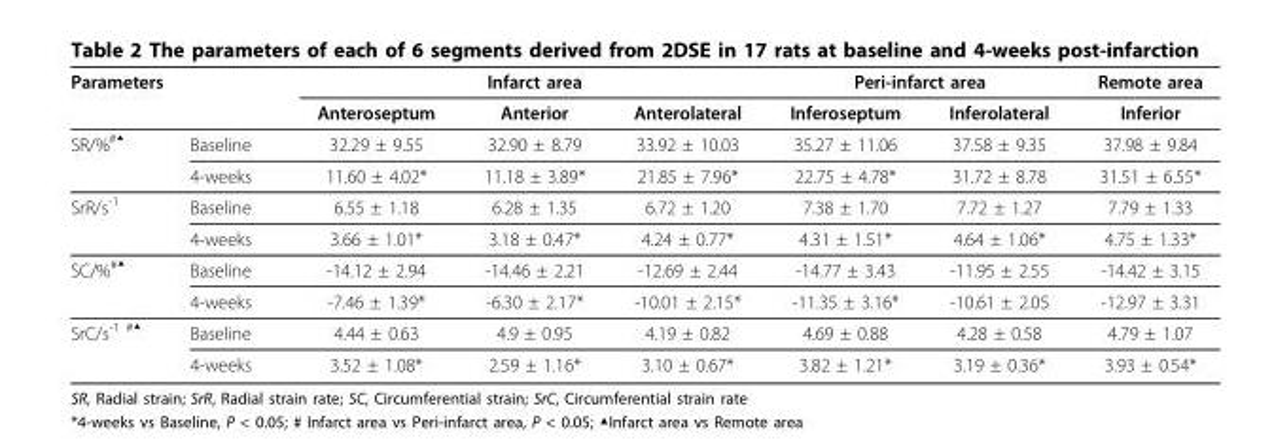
<table><thead><tr><td colspan="2">Parameters</td><td rowspan="2">Anteroseptum</td><td rowspan="2">Infarct area Anterior</td><td rowspan="2">Anterolateral</td><td colspan="2">Peri-infarct area</td><td rowspan="2">Remote area Inferior</td></tr><tr><td></td><td></td><td>Inferoseptum</td><td>Inferolateral</td></tr></thead><tbody><tr><td rowspan="2">SR/%<sup>#▲</sup></td><td>Baseline</td><td>32.29 ± 9.55</td><td>32.90 ± 8.79</td><td>33.92 ± 10.03</td><td>35.27 ± 11.06</td><td>37.58 ± 9.35</td><td>37.98 ± 9.84</td></tr><tr><td>4-weeks</td><td>11.60 ± 4.02*</td><td>11.18 ± 3.89*</td><td>21.85 ± 7.96*</td><td>22.75 ± 4.78*</td><td>31.72 ± 8.78</td><td>31.51 ± 6.55*</td></tr><tr><td rowspan="2">SrR/s<sup>-1</sup></td><td>Baseline</td><td>6.55 ± 1.18</td><td>6.28 ± 1.35</td><td>6.72 ± 1.20</td><td>7.38 ± 1.70</td><td>7.72 ± 1.27</td><td>7.79 ± 1.33</td></tr><tr><td>4-weeks</td><td>3.66 ± 1.01*</td><td>3.18 ± 0.47*</td><td>4.24 ± 0.77*</td><td>4.31 ± 1.51*</td><td>4.64 ± 1.06*</td><td>4.75 ± 1.33*</td></tr><tr><td rowspan="2">SC/%<sup>#▲</sup></td><td>Baseline</td><td>-14.12 ± 2.94</td><td>-14.46 ± 2.21</td><td>-12.69 ± 2.44</td><td>-14.77 ± 3.43</td><td>-11.95 ± 2.55</td><td>-14.42 ± 3.15</td></tr><tr><td>4-weeks</td><td>-7.46 ± 1.39*</td><td>-6.30 ± 2.17*</td><td>-10.01 ± 2.15*</td><td>-11.35 ± 3.16*</td><td>-10.61 ± 2.05</td><td>-12.97 ± 3.31</td></tr><tr><td rowspan="2">SrC/s<sup>-1 #▲</sup></td><td>Baseline</td><td>4.44 ± 0.63</td><td>4.9 ± 0.95</td><td>4.19 ± 0.82</td><td>4.69 ± 0.88</td><td>4.28 ± 0.58</td><td>4.79 ± 1.07</td></tr><tr><td>4-weeks</td><td>3.52 ± 1.08*</td><td>2.59 ± 1.16*</td><td>3.10 ± 0.67*</td><td>3.82 ± 1.21*</td><td>3.19 ± 0.36*</td><td>3.93 ± 0.54*</td></tr></tbody></table>